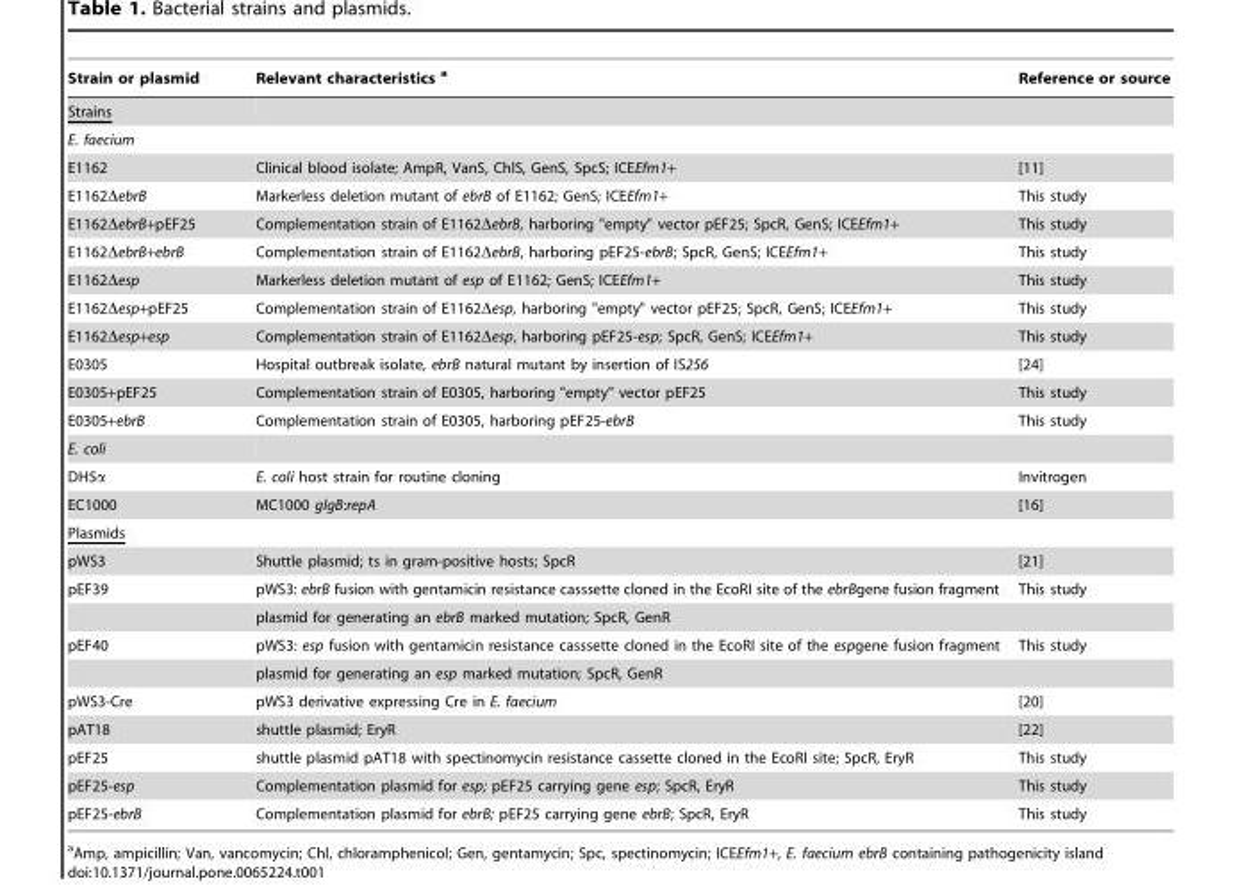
<table><thead><tr><td>Strain or plasmid</td><td>Relevant characteristics a</td><td>Reference or source</td></tr></thead><tbody><tr><td colspan="3">Strains</td></tr><tr><td colspan="3">E. faecium</td></tr><tr><td>E1162</td><td>Clinical blood isolate; AmpR, VanS, ChlS, GenS, SpcS; ICEEfm1+</td><td>[11]</td></tr><tr><td>E1162ΔebrB</td><td>Markerless deletion mutant of ebrB of E1162; GenS; ICEEfm1+</td><td>This study</td></tr><tr><td>E1162ΔebrB+pEF25</td><td>Complementation strain of E1162ΔebrB, harboring &quot;empty&quot; vector pEF25; SpcR, GenS; ICEEfm1+</td><td>This study</td></tr><tr><td>E1162ΔebrB+ebrB</td><td>Complementation strain of E1162ΔebrB, harboring pEF25-ebrB; SpcR, GenS; ICEEfm1+</td><td>This study</td></tr><tr><td>E1162Δesp</td><td>Markerless deletion mutant of esp of E1162; GenS; ICEEfm1+</td><td>This study</td></tr><tr><td>E1162Δesp+pEF25</td><td>Complementation strain of E1162Δesp, harboring &quot;empty&quot; vector pEF25; SpcR, GenS; ICEEfm1+</td><td>This study</td></tr><tr><td>E1162Δesp+esp</td><td>Complementation strain of E1162Δesp, harboring pEF25-esp; SpcR, GenS; ICEEfm1+</td><td>This study</td></tr><tr><td>E0305</td><td>Hospital outbreak isolate, ebrB natural mutant by insertion of IS256</td><td>[24]</td></tr><tr><td>E0305+pEF25</td><td>Complementation strain of E0305, harboring &quot;empty&quot; vector pEF25</td><td>This study</td></tr><tr><td>E0305+ebrB</td><td>Complementation strain of E0305, harboring pEF25-ebrB</td><td>This study</td></tr><tr><td colspan="3">E. coli</td></tr><tr><td>DH5α</td><td>E. coli host strain for routine cloning</td><td>Invitrogen</td></tr><tr><td>EC1000</td><td>MC1000 glgB:repA</td><td>[16]</td></tr><tr><td colspan="3">Plasmids</td></tr><tr><td>pWS3</td><td>Shuttle plasmid; ts in gram-positive hosts; SpcR</td><td>[21]</td></tr><tr><td rowspan="2">pEF39</td><td>pWS3: ebrB fusion with gentamicin resistance casssette cloned in the EcoRI site of the ebrBgene fusion fragment</td><td>This study</td></tr><tr><td>plasmid for generating an ebrB marked mutation; SpcR, GenR</td><td></td></tr><tr><td rowspan="2">pEF40</td><td>pWS3: esp fusion with gentamicin resistance casssette cloned in the EcoRI site of the espgene fusion fragment</td><td>This study</td></tr><tr><td>plasmid for generating an esp marked mutation; SpcR, GenR</td><td></td></tr><tr><td>pWS3-Cre</td><td>pWS3 derivative expressing Cre in E. faecium</td><td>[20]</td></tr><tr><td>pAT18</td><td>shuttle plasmid; EryR</td><td>[22]</td></tr><tr><td>pEF25</td><td>shuttle plasmid pAT18 with spectinomycin resistance cassette cloned in the EcoRI site; SpcR, EryR</td><td>This study</td></tr><tr><td>pEF25-esp</td><td>Complementation plasmid for esp; pEF25 carrying gene esp; SpcR, EryR</td><td>This study</td></tr><tr><td>pEF25-ebrB</td><td>Complementation plasmid for ebrB; pEF25 carrying gene ebrB; SpcR, EryR</td><td>This study</td></tr></tbody></table>